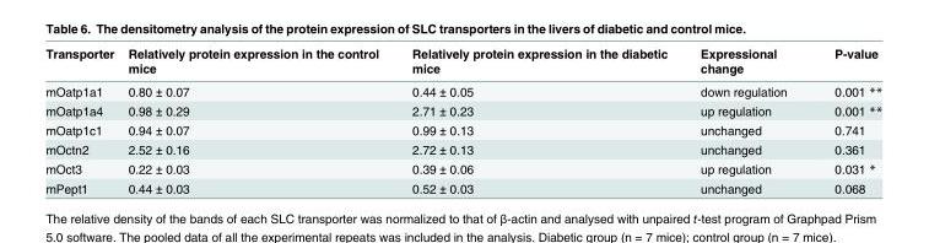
<table><thead><tr><td>Transporter</td><td>Relatively protein expression in the control mice</td><td>Relatively protein expression in the diabetic mice</td><td>Expressional change</td><td>P-value</td></tr></thead><tbody><tr><td>mOatp1a1</td><td>0.80 ± 0.07</td><td>0.44 ± 0.05</td><td>down regulation</td><td>0.001 **</td></tr><tr><td>mOatp1a4</td><td>0.98 ± 0.29</td><td>2.71 ± 0.23</td><td>up regulation</td><td>0.001 **</td></tr><tr><td>mOatp1c1</td><td>0.94 ± 0.07</td><td>0.99 ± 0.13</td><td>unchanged</td><td>0.741</td></tr><tr><td>mOctn2</td><td>2.52 ± 0.16</td><td>2.72 ± 0.13</td><td>unchanged</td><td>0.361</td></tr><tr><td>mOct3</td><td>0.22 ± 0.03</td><td>0.39 ± 0.06</td><td>up regulation</td><td>0.031 *</td></tr><tr><td>mPept1</td><td>0.44 ± 0.03</td><td>0.52 ± 0.03</td><td>unchanged</td><td>0.068</td></tr></tbody></table>